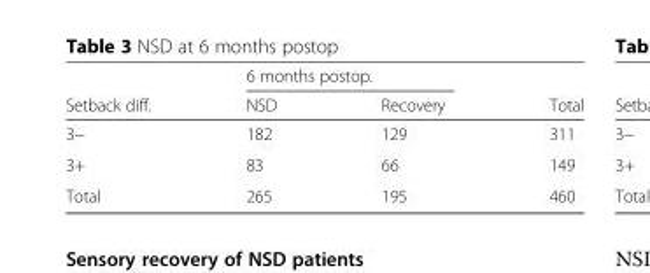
<table><thead><tr><td rowspan="2">Setback diff.</td><td colspan="2">6 months postop.</td><td rowspan="2">Total</td></tr><tr><td>NSD</td><td>Recovery</td></tr></thead><tbody><tr><td>3−</td><td>182</td><td>129</td><td>311</td></tr><tr><td>3+</td><td>83</td><td>66</td><td>149</td></tr><tr><td>Total</td><td>265</td><td>195</td><td>460</td></tr></tbody></table>